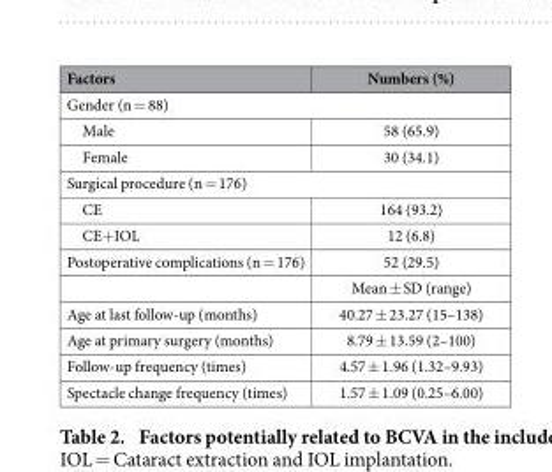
<table><thead><tr><td>Factors</td><td>Numbers (%)</td></tr></thead><tbody><tr><td colspan="2">Gender (n = 88)</td></tr><tr><td>Male</td><td>58 (65.9)</td></tr><tr><td>Female</td><td>30 (34.1)</td></tr><tr><td colspan="2">Surgical procedure (n = 176)</td></tr><tr><td>CE</td><td>164 (93.2)</td></tr><tr><td>CE+IOL</td><td>12 (6.8)</td></tr><tr><td rowspan="2">Postoperative complications (n = 176)</td><td>52 (29.5)</td></tr><tr><td>Mean ± SD (range)</td></tr><tr><td>Age at last follow-up (months)</td><td>40.27 ± 23.27 (15–138)</td></tr><tr><td>Age at primary surgery (months)</td><td>8.79 ± 13.59 (2–100)</td></tr><tr><td>Follow-up frequency (times)</td><td>4.57 ± 1.96 (1.32–9.93)</td></tr><tr><td>Spectacle change frequency (times)</td><td>1.57 ± 1.09 (0.25–6.00)</td></tr></tbody></table>